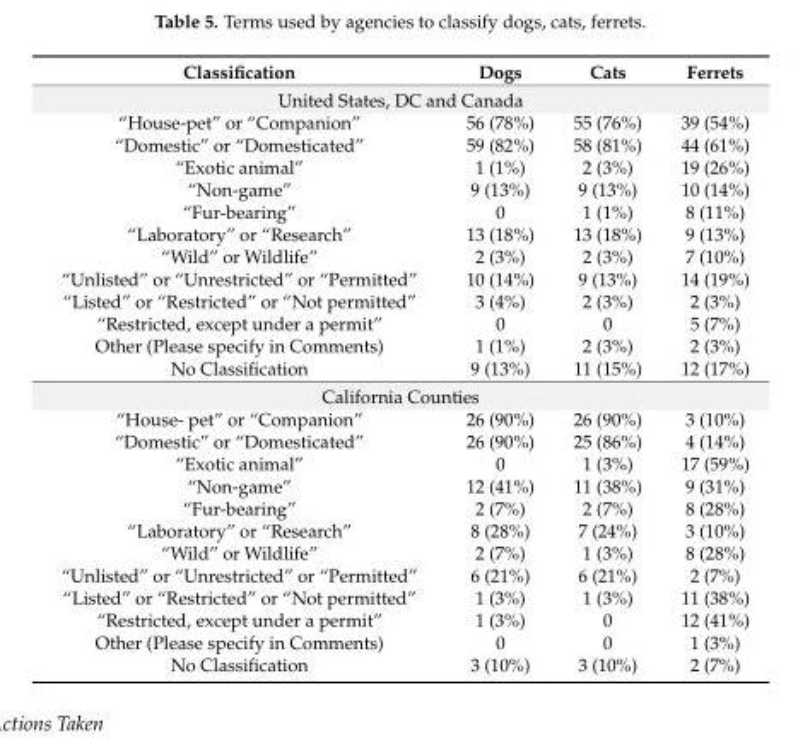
<table><thead><tr><td>Classification</td><td>Dogs</td><td>Cats</td><td>Ferrets</td></tr></thead><tbody><tr><td colspan="4">United States, DC and Canada</td></tr><tr><td>“House-pet” or “Companion”</td><td>56 (78%)</td><td>55 (76%)</td><td>39 (54%)</td></tr><tr><td>“Domestic” or “Domesticated”</td><td>59 (82%)</td><td>58 (81%)</td><td>44 (61%)</td></tr><tr><td>“Exotic animal”</td><td>1 (1%)</td><td>2 (3%)</td><td>19 (26%)</td></tr><tr><td>“Non-game”</td><td>9 (13%)</td><td>9 (13%)</td><td>10 (14%)</td></tr><tr><td>“Fur-bearing”</td><td>0</td><td>1 (1%)</td><td>8 (11%)</td></tr><tr><td>“Laboratory” or “Research”</td><td>13 (18%)</td><td>13 (18%)</td><td>9 (13%)</td></tr><tr><td>“Wild” or Wildlife”</td><td>2 (3%)</td><td>2 (3%)</td><td>7 (10%)</td></tr><tr><td>“Unlisted” or “Unrestricted” or “Permitted”</td><td>10 (14%)</td><td>9 (13%)</td><td>14 (19%)</td></tr><tr><td>“Listed” or “Restricted” or “Not permitted”</td><td>3 (4%)</td><td>2 (3%)</td><td>2 (3%)</td></tr><tr><td>“Restricted, except under a permit”</td><td>0</td><td>0</td><td>5 (7%)</td></tr><tr><td>Other (Please specify in Comments)</td><td>1 (1%)</td><td>2 (3%)</td><td>2 (3%)</td></tr><tr><td>No Classification</td><td>9 (13%)</td><td>11 (15%)</td><td>12 (17%)</td></tr><tr><td colspan="4">California Counties</td></tr><tr><td>“House- pet” or “Companion”</td><td>26 (90%)</td><td>26 (90%)</td><td>3 (10%)</td></tr><tr><td>“Domestic” or “Domesticated”</td><td>26 (90%)</td><td>25 (86%)</td><td>4 (14%)</td></tr><tr><td>“Exotic animal”</td><td>0</td><td>1 (3%)</td><td>17 (59%)</td></tr><tr><td>“Non-game”</td><td>12 (41%)</td><td>11 (38%)</td><td>9 (31%)</td></tr><tr><td>“Fur-bearing”</td><td>2 (7%)</td><td>2 (7%)</td><td>8 (28%)</td></tr><tr><td>“Laboratory” or “Research”</td><td>8 (28%)</td><td>7 (24%)</td><td>3 (10%)</td></tr><tr><td>“Wild” or Wildlife”</td><td>2 (7%)</td><td>1 (3%)</td><td>8 (28%)</td></tr><tr><td>“Unlisted” or “Unrestricted” or “Permitted”</td><td>6 (21%)</td><td>6 (21%)</td><td>2 (7%)</td></tr><tr><td>“Listed” or “Restricted” or “Not permitted”</td><td>1 (3%)</td><td>1 (3%)</td><td>11 (38%)</td></tr><tr><td>“Restricted, except under a permit”</td><td>1 (3%)</td><td>0</td><td>12 (41%)</td></tr><tr><td>Other (Please specify in Comments)</td><td>0</td><td>0</td><td>1 (3%)</td></tr><tr><td>No Classification</td><td>3 (10%)</td><td>3 (10%)</td><td>2 (7%)</td></tr></tbody></table>